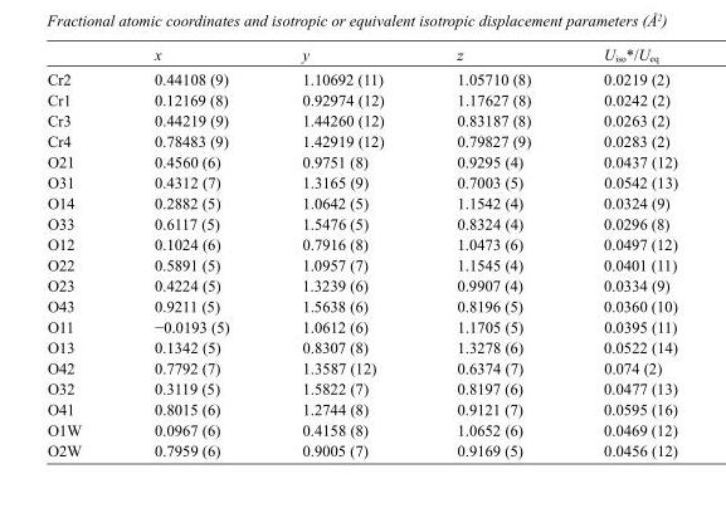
<table><thead><tr><td></td><td>x</td><td>y</td><td>z</td><td>U<sub>iso</sub>*/U<sub>eq</sub></td></tr></thead><tbody><tr><td>Cr2</td><td>0.44108 (9)</td><td>1.10692 (11)</td><td>1.05710 (8)</td><td>0.0219 (2)</td></tr><tr><td>Cr1</td><td>0.12169 (8)</td><td>0.92974 (12)</td><td>1.17627 (8)</td><td>0.0242 (2)</td></tr><tr><td>Cr3</td><td>0.44219 (9)</td><td>1.44260 (12)</td><td>0.83187 (8)</td><td>0.0263 (2)</td></tr><tr><td>Cr4</td><td>0.78483 (9)</td><td>1.42919 (12)</td><td>0.79827 (9)</td><td>0.0283 (2)</td></tr><tr><td>O21</td><td>0.4560 (6)</td><td>0.9751 (8)</td><td>0.9295 (4)</td><td>0.0437 (12)</td></tr><tr><td>O31</td><td>0.4312 (7)</td><td>1.3165 (9)</td><td>0.7003 (5)</td><td>0.0542 (13)</td></tr><tr><td>O14</td><td>0.2882 (5)</td><td>1.0642 (5)</td><td>1.1542 (4)</td><td>0.0324 (9)</td></tr><tr><td>O33</td><td>0.6117 (5)</td><td>1.5476 (5)</td><td>0.8324 (4)</td><td>0.0296 (8)</td></tr><tr><td>O12</td><td>0.1024 (6)</td><td>0.7916 (8)</td><td>1.0473 (6)</td><td>0.0497 (12)</td></tr><tr><td>O22</td><td>0.5891 (5)</td><td>1.0957 (7)</td><td>1.1545 (4)</td><td>0.0401 (11)</td></tr><tr><td>O23</td><td>0.4224 (5)</td><td>1.3239 (6)</td><td>0.9907 (4)</td><td>0.0334 (9)</td></tr><tr><td>O43</td><td>0.9211 (5)</td><td>1.5638 (6)</td><td>0.8196 (5)</td><td>0.0360 (10)</td></tr><tr><td>O11</td><td>−0.0193 (5)</td><td>1.0612 (6)</td><td>1.1705 (5)</td><td>0.0395 (11)</td></tr><tr><td>O13</td><td>0.1342 (5)</td><td>0.8307 (8)</td><td>1.3278 (6)</td><td>0.0522 (14)</td></tr><tr><td>O42</td><td>0.7792 (7)</td><td>1.3587 (12)</td><td>0.6374 (7)</td><td>0.074 (2)</td></tr><tr><td>O32</td><td>0.3119 (5)</td><td>1.5822 (7)</td><td>0.8197 (6)</td><td>0.0477 (13)</td></tr><tr><td>O41</td><td>0.8015 (6)</td><td>1.2744 (8)</td><td>0.9121 (7)</td><td>0.0595 (16)</td></tr><tr><td>O1W</td><td>0.0967 (6)</td><td>0.4158 (8)</td><td>1.0652 (6)</td><td>0.0469 (12)</td></tr><tr><td>O2W</td><td>0.7959 (6)</td><td>0.9005 (7)</td><td>0.9169 (5)</td><td>0.0456 (12)</td></tr></tbody></table>